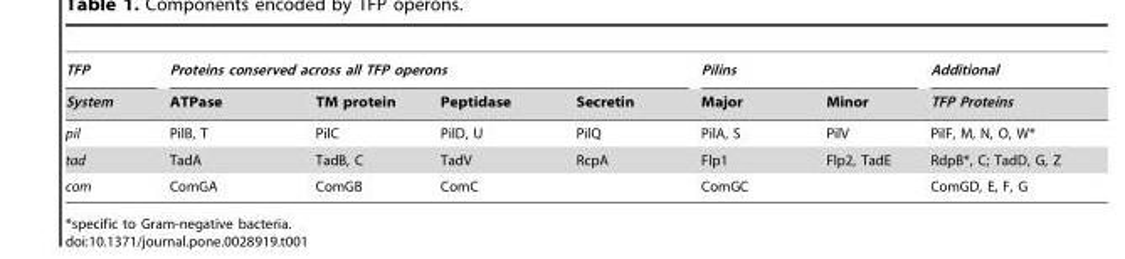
<table><thead><tr><td rowspan="2">TFP System</td><td colspan="4">Proteins conserved across all TFP operons</td><td colspan="2">Pilins</td><td rowspan="2">Additional TFP Proteins</td></tr><tr><td>ATPase</td><td>TM protein</td><td>Peptidase</td><td>Secretin</td><td>Major</td><td>Minor</td></tr></thead><tbody><tr><td>pil</td><td>PilB, T</td><td>PilC</td><td>PilD, U</td><td>PilQ</td><td>PilA, S</td><td>PilV</td><td>PilF, M, N, O, W*</td></tr><tr><td>tad</td><td>TadA</td><td>TadB, C</td><td>TadV</td><td>RcpA</td><td>Flp1</td><td>Flp2, TadE</td><td>RdpB*, C; TadD, G, Z</td></tr><tr><td>com</td><td>ComGA</td><td>ComGB</td><td>ComC</td><td></td><td>ComGC</td><td></td><td>ComGD, E, F, G</td></tr></tbody></table>